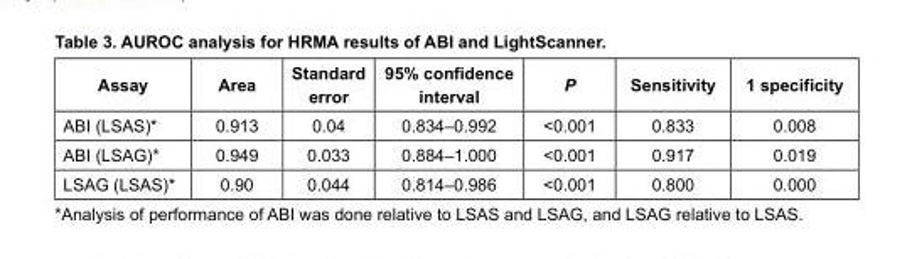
<table><thead><tr><td>Assay</td><td>Area</td><td>Standard error</td><td>95% confidence interval</td><td>P</td><td>Sensitivity</td><td>1 specificity</td></tr></thead><tbody><tr><td>ABI (LSAS)*</td><td>0.913</td><td>0.04</td><td>0.834–0.992</td><td>&lt;0.001</td><td>0.833</td><td>0.008</td></tr><tr><td>ABI (LSAG)*</td><td>0.949</td><td>0.033</td><td>0.884–1.000</td><td>&lt;0.001</td><td>0.917</td><td>0.019</td></tr><tr><td>LSAG (LSAS)*</td><td>0.90</td><td>0.044</td><td>0.814–0.986</td><td>&lt;0.001</td><td>0.800</td><td>0.000</td></tr></tbody></table>